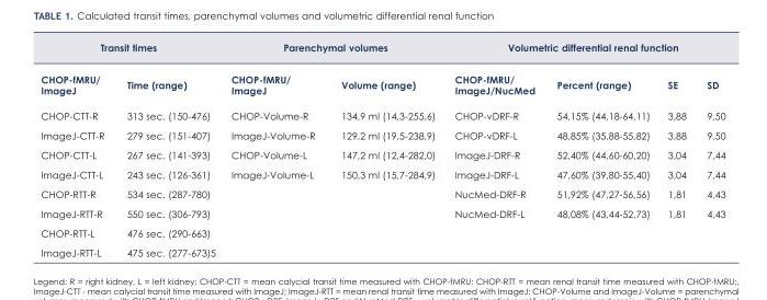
<table><thead><tr><td colspan="2">Transit times</td><td colspan="2">Parenchymal volumes</td><td colspan="4">Volumetric differential renal function</td></tr><tr><td>CHOP-fMRU/ ImageJ</td><td>Time (range)</td><td>CHOP-fMRU/ ImageJ</td><td>Volume (range)</td><td>CHOP-fMRU/ ImageJ/NucMed</td><td>Percent (range)</td><td>SE</td><td>SD</td></tr></thead><tbody><tr><td>CHOP-CTT-R</td><td>313 sec. (150-476)</td><td>CHOP-Volume-R</td><td>134,9 ml (14,3-255,6)</td><td>CHOP-vDRF-R</td><td>54,15% (44,18-64,11)</td><td>3,88</td><td>9,50</td></tr><tr><td>ImageJ-CTT-R</td><td>279 sec. (151-407)</td><td>ImageJ-Volume-R</td><td>129,2 ml (19,5-238,9)</td><td>CHOP-vDRF-L</td><td>48,85% (35,88-55,82)</td><td>3,88</td><td>9,50</td></tr><tr><td>CHOP-CTT-L</td><td>267 sec. (141-393)</td><td>CHOP-Volume-L</td><td>147,2 ml (12,4-282,0)</td><td>ImageJ-DRF-R</td><td>52,40% (44,60-60,20)</td><td>3,04</td><td>7,44</td></tr><tr><td>ImageJ-CTT-L</td><td>243 sec. (126-361)</td><td>ImageJ-Volume-L</td><td>150,3 ml (15,7-284,9)</td><td>ImageJ-DRF-L</td><td>47,60% (39,80-55,40)</td><td>3,04</td><td>7,44</td></tr><tr><td>CHOP-RTT-R</td><td>534 sec. (287-780)</td><td></td><td></td><td>NucMed-DRF-R</td><td>51,92% (47,27-56,56)</td><td>1,81</td><td>4,43</td></tr><tr><td>ImageJ-RTT-R</td><td>550 sec. (306-793)</td><td></td><td></td><td>NucMed-DRF-L</td><td>48,08% (43,44-52,73)</td><td>1,81</td><td>4,43</td></tr><tr><td>CHOP-RTT-L</td><td>476 sec. (290-663)</td><td></td><td></td><td></td><td></td><td></td><td></td></tr><tr><td>ImageJ-RTT-L</td><td>475 sec. (277-673)5</td><td></td><td></td><td></td><td></td><td></td><td></td></tr></tbody></table>